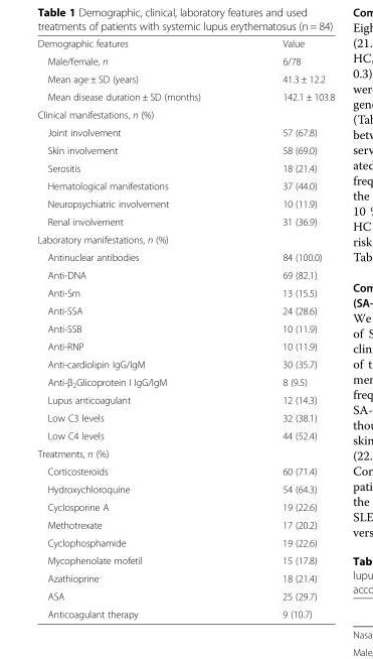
<table><tbody><tr><td>Demographic features</td><td>Value</td></tr><tr><td>Male/female, n</td><td>6/78</td></tr><tr><td>Mean age ± SD (years)</td><td>41.3 ± 12.2</td></tr><tr><td>Mean disease duration ± SD (months)</td><td>142.1 ± 103.8</td></tr><tr><td colspan="2">Clinical manifestations, n (%)</td></tr><tr><td>Joint involvement</td><td>57 (67.8)</td></tr><tr><td>Skin involvement</td><td>58 (69.0)</td></tr><tr><td>Serositis</td><td>18 (21.4)</td></tr><tr><td>Hematological manifestations</td><td>37 (44.0)</td></tr><tr><td>Neuropsychiatric involvement</td><td>10 (11.9)</td></tr><tr><td>Renal involvement</td><td>31 (36.9)</td></tr><tr><td colspan="2">Laboratory manifestations, n (%)</td></tr><tr><td>Antinuclear antibodies</td><td>84 (100.0)</td></tr><tr><td>Anti-DNA</td><td>69 (82.1)</td></tr><tr><td>Anti-Sm</td><td>13 (15.5)</td></tr><tr><td>Anti-SSA</td><td>24 (28.6)</td></tr><tr><td>Anti-SSB</td><td>10 (11.9)</td></tr><tr><td>Anti-RNP</td><td>10 (11.9)</td></tr><tr><td>Anti-cardiolipin IgG/IgM</td><td>30 (35.7)</td></tr><tr><td>Anti-β<sub>2</sub>Glicoprotein I IgG/IgM</td><td>8 (9.5)</td></tr><tr><td>Lupus anticoagulant</td><td>12 (14.3)</td></tr><tr><td>Low C3 levels</td><td>32 (38.1)</td></tr><tr><td>Low C4 levels</td><td>44 (52.4)</td></tr><tr><td colspan="2">Treatments, n (%)</td></tr><tr><td>Corticosteroids</td><td>60 (71.4)</td></tr><tr><td>Hydroxychloroquine</td><td>54 (64.3)</td></tr><tr><td>Cyclosporine A</td><td>19 (22.6)</td></tr><tr><td>Methotrexate</td><td>17 (20.2)</td></tr><tr><td>Cyclophosphamide</td><td>19 (22.6)</td></tr><tr><td>Mycophenolate mofetil</td><td>15 (17.8)</td></tr><tr><td>Azathioprine</td><td>18 (21.4)</td></tr><tr><td>ASA</td><td>25 (29.7)</td></tr><tr><td>Anticoagulant therapy</td><td>9 (10.7)</td></tr></tbody></table>